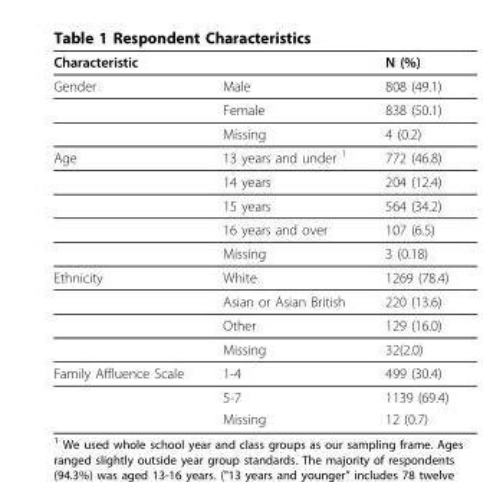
<table><thead><tr><td>Characteristic</td><td></td><td>N (%)</td></tr></thead><tbody><tr><td rowspan="3">Gender</td><td>Male</td><td>808 (49.1)</td></tr><tr><td>Female</td><td>838 (50.1)</td></tr><tr><td>Missing</td><td>4 (0.2)</td></tr><tr><td rowspan="5">Age</td><td>13 years and under <sup>1</sup></td><td>772 (46.8)</td></tr><tr><td>14 years</td><td>204 (12.4)</td></tr><tr><td>15 years</td><td>564 (34.2)</td></tr><tr><td>16 years and over</td><td>107 (6.5)</td></tr><tr><td>Missing</td><td>3 (0.18)</td></tr><tr><td rowspan="4">Ethnicity</td><td>White</td><td>1269 (78.4)</td></tr><tr><td>Asian or Asian British</td><td>220 (13.6)</td></tr><tr><td>Other</td><td>129 (16.0)</td></tr><tr><td>Missing</td><td>32(2.0)</td></tr><tr><td rowspan="3">Family Affluence Scale</td><td>1-4</td><td>499 (30.4)</td></tr><tr><td>5-7</td><td>1139 (69.4)</td></tr><tr><td>Missing</td><td>12 (0.7)</td></tr></tbody></table>